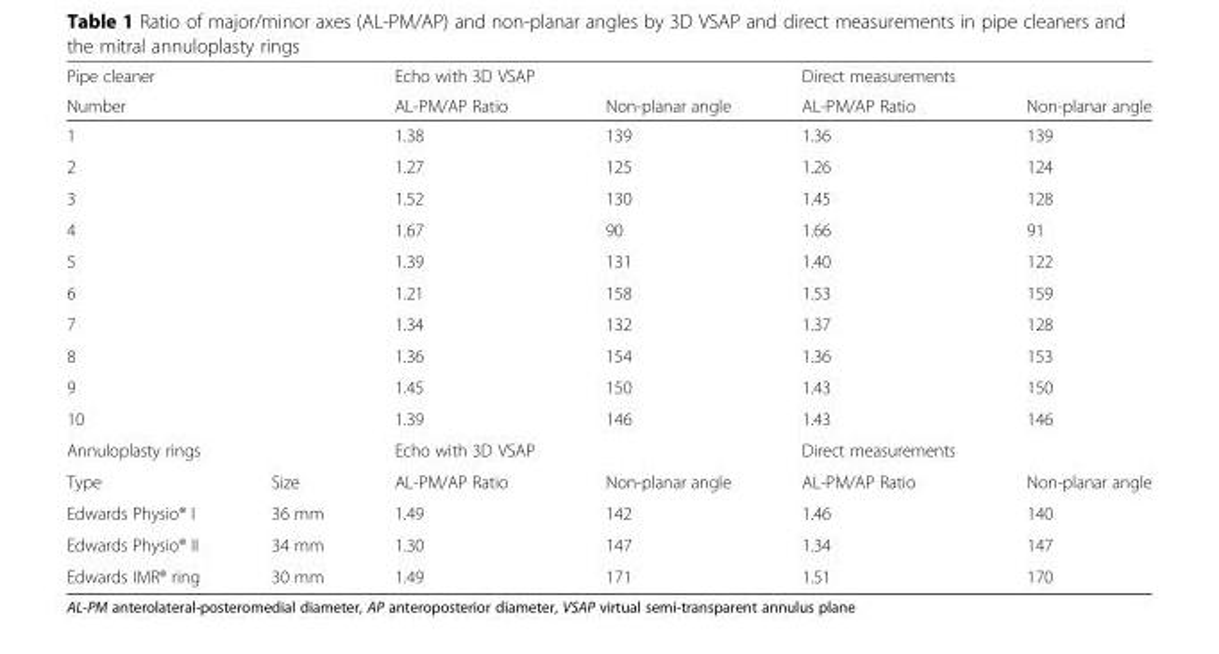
<table><thead><tr><td rowspan="2">Pipe cleaner Number</td><td rowspan="2"></td><td rowspan="2">Echo with 3D VSAP AL-PM/AP Ratio</td><td rowspan="2">Non-planar angle</td><td rowspan="2">Direct measurements AL-PM/AP Ratio</td><td rowspan="2">Non-planar angle</td></tr><tr></tr></thead><tbody><tr><td>1</td><td></td><td>1.38</td><td>139</td><td>1.36</td><td>139</td></tr><tr><td>2</td><td></td><td>1.27</td><td>125</td><td>1.26</td><td>124</td></tr><tr><td>3</td><td></td><td>1.52</td><td>130</td><td>1.45</td><td>128</td></tr><tr><td>4</td><td></td><td>1.67</td><td>90</td><td>1.66</td><td>91</td></tr><tr><td>5</td><td></td><td>1.39</td><td>131</td><td>1.40</td><td>122</td></tr><tr><td>6</td><td></td><td>1.21</td><td>158</td><td>1.53</td><td>159</td></tr><tr><td>7</td><td></td><td>1.34</td><td>132</td><td>1.37</td><td>128</td></tr><tr><td>8</td><td></td><td>1.36</td><td>154</td><td>1.36</td><td>153</td></tr><tr><td>9</td><td></td><td>1.45</td><td>150</td><td>1.43</td><td>150</td></tr><tr><td>10</td><td></td><td>1.39</td><td>146</td><td>1.43</td><td>146</td></tr><tr><td>Annuloplasty rings</td><td></td><td>Echo with 3D VSAP</td><td></td><td>Direct measurements</td><td></td></tr><tr><td>Type</td><td>Size</td><td>AL-PM/AP Ratio</td><td>Non-planar angle</td><td>AL-PM/AP Ratio</td><td>Non-planar angle</td></tr><tr><td>Edwards Physio® I</td><td>36 mm</td><td>1.49</td><td>142</td><td>1.46</td><td>140</td></tr><tr><td>Edwards Physio® II</td><td>34 mm</td><td>1.30</td><td>147</td><td>1.34</td><td>147</td></tr><tr><td>Edwards IMR® ring</td><td>30 mm</td><td>1.49</td><td>171</td><td>1.51</td><td>170</td></tr></tbody></table>